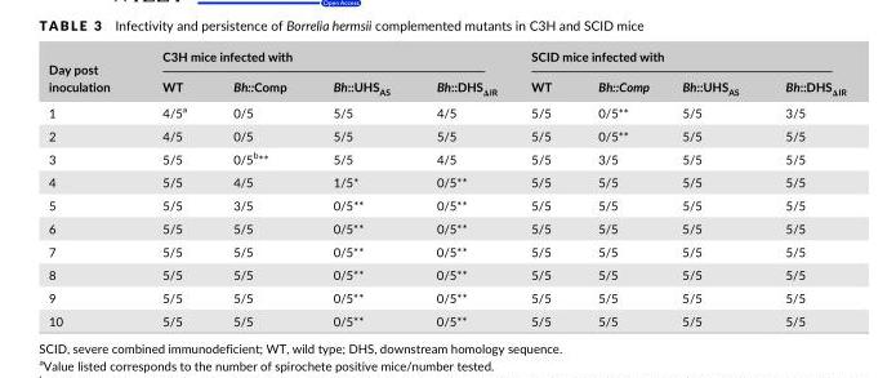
<table><thead><tr><td rowspan="2">Day post inoculation</td><td colspan="4">C3H mice infected with</td><td colspan="4">SCID mice infected with</td></tr><tr><td>WT</td><td>Bh::Comp</td><td>Bh::UHS<sub>AS</sub></td><td>Bh::DHS<sub>ΔIR</sub></td><td>WT</td><td>Bh::Comp</td><td>Bh::UHS<sub>AS</sub></td><td>Bh::DHS<sub>ΔIR</sub></td></tr></thead><tbody><tr><td>1</td><td>4/5<sup>a</sup></td><td>0/5</td><td>5/5</td><td>4/5</td><td>5/5</td><td>0/5**</td><td>5/5</td><td>3/5</td></tr><tr><td>2</td><td>4/5</td><td>0/5</td><td>5/5</td><td>5/5</td><td>5/5</td><td>0/5**</td><td>5/5</td><td>5/5</td></tr><tr><td>3</td><td>5/5</td><td>0/5<sup>b</sup>**</td><td>5/5</td><td>4/5</td><td>5/5</td><td>3/5</td><td>5/5</td><td>5/5</td></tr><tr><td>4</td><td>5/5</td><td>4/5</td><td>1/5*</td><td>0/5**</td><td>5/5</td><td>5/5</td><td>5/5</td><td>5/5</td></tr><tr><td>5</td><td>5/5</td><td>3/5</td><td>0/5**</td><td>0/5**</td><td>5/5</td><td>5/5</td><td>5/5</td><td>5/5</td></tr><tr><td>6</td><td>5/5</td><td>5/5</td><td>0/5**</td><td>0/5**</td><td>5/5</td><td>5/5</td><td>5/5</td><td>5/5</td></tr><tr><td>7</td><td>5/5</td><td>5/5</td><td>0/5**</td><td>0/5**</td><td>5/5</td><td>5/5</td><td>5/5</td><td>5/5</td></tr><tr><td>8</td><td>5/5</td><td>5/5</td><td>0/5**</td><td>0/5**</td><td>5/5</td><td>5/5</td><td>5/5</td><td>5/5</td></tr><tr><td>9</td><td>5/5</td><td>5/5</td><td>0/5**</td><td>0/5**</td><td>5/5</td><td>5/5</td><td>5/5</td><td>5/5</td></tr><tr><td>10</td><td>5/5</td><td>5/5</td><td>0/5**</td><td>0/5**</td><td>5/5</td><td>5/5</td><td>5/5</td><td>5/5</td></tr></tbody></table>